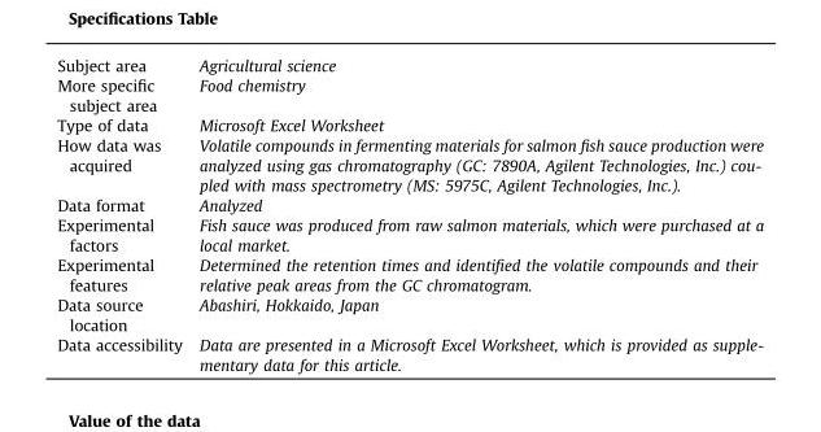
<table><thead><tr><td>Subject area</td><td>Agricultural science</td></tr></thead><tbody><tr><td>More specific subject area</td><td>Food chemistry</td></tr><tr><td>Type of data</td><td>Microsoft Excel Worksheet</td></tr><tr><td>How data was acquired</td><td>Volatile compounds in fermenting materials for salmon fish sauce production were analyzed using gas chromatography (GC: 7890A, Agilent Technologies, Inc.) cou- pled with mass spectrometry (MS: 5975C, Agilent Technologies, Inc.).</td></tr><tr><td>Data format</td><td>Analyzed</td></tr><tr><td>Experimental factors</td><td>Fish sauce was produced from raw salmon materials, which were purchased at a local market.</td></tr><tr><td>Experimental features</td><td>Determined the retention times and identified the volatile compounds and their relative peak areas from the GC chromatogram.</td></tr><tr><td>Data source location</td><td>Abashiri, Hokkaido, Japan</td></tr><tr><td>Data accessibility</td><td>Data are presented in a Microsoft Excel Worksheet, which is provided as supple- mentary data for this article.</td></tr></tbody></table>